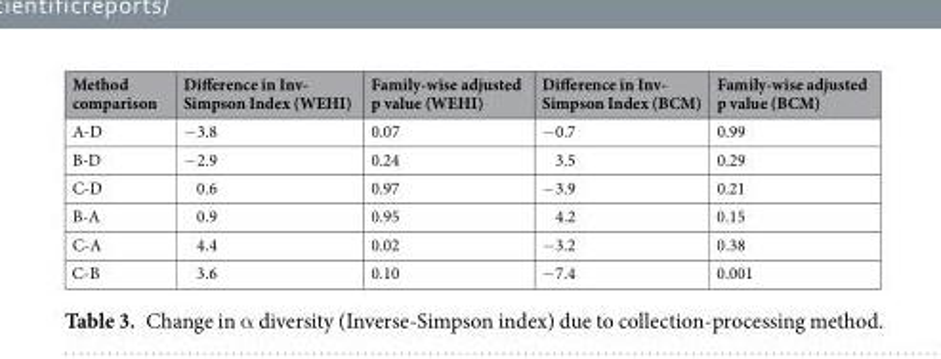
<table><thead><tr><td>Method comparison</td><td>Difference in Inv- Simpson Index (WEHI)</td><td>Family-wise adjusted p value (WEHI)</td><td>Difference in Inv- Simpson Index (BCM)</td><td>Family-wise adjusted p value (BCM)</td></tr></thead><tbody><tr><td>A-D</td><td>−3.8</td><td>0.07</td><td>−0.7</td><td>0.99</td></tr><tr><td>B-D</td><td>−2.9</td><td>0.24</td><td>3.5</td><td>0.29</td></tr><tr><td>C-D</td><td>0.6</td><td>0.97</td><td>−3.9</td><td>0.21</td></tr><tr><td>B-A</td><td>0.9</td><td>0.95</td><td>4.2</td><td>0.15</td></tr><tr><td>C-A</td><td>4.4</td><td>0.02</td><td>−3.2</td><td>0.38</td></tr><tr><td>C-B</td><td>3.6</td><td>0.10</td><td>−7.4</td><td>0.001</td></tr></tbody></table>